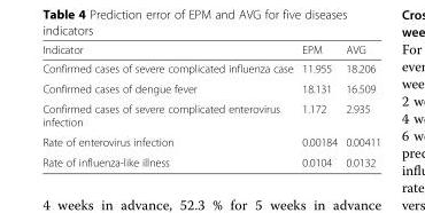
<table><thead><tr><td>Indicator</td><td>EPM</td><td>AVG</td></tr></thead><tbody><tr><td>Confirmed cases of severe complicated influenza case</td><td>11.955</td><td>18.206</td></tr><tr><td>Confirmed cases of dengue fever</td><td>18.131</td><td>16.509</td></tr><tr><td>Confirmed cases of severe complicated enterovirus infection</td><td>1.172</td><td>2.935</td></tr><tr><td>Rate of enterovirus infection</td><td>0.00184</td><td>0.00411</td></tr><tr><td>Rate of influenza-like illness</td><td>0.0104</td><td>0.0132</td></tr></tbody></table>